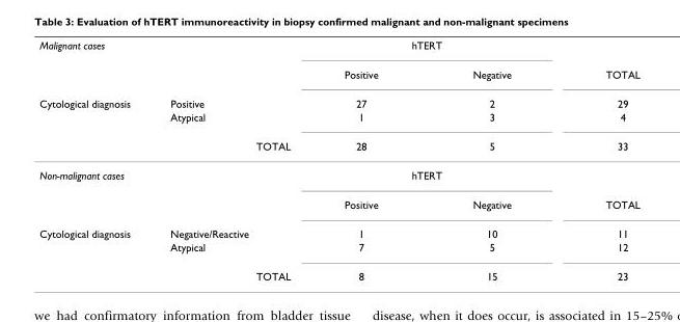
<table><thead><tr><td rowspan="5">Malignant cases Cytological diagnosis</td><td rowspan="5">Positive Atypical TOTAL</td><td colspan="2">hTERT</td><td rowspan="5">TOTAL 29 4 33</td></tr><tr><td rowspan="4">Positive 27 1 28</td><td rowspan="4">Negative 2 3 5</td></tr><tr></tr><tr></tr><tr></tr></thead><tbody><tr><td rowspan="2">Non-malignant cases</td><td></td><td colspan="2">hTERT</td><td></td></tr><tr><td></td><td>Positive</td><td>Negative</td><td>TOTAL</td></tr><tr><td rowspan="3">Cytological diagnosis</td><td>Negative/Reactive</td><td>1</td><td>10</td><td>11</td></tr><tr><td>Atypical</td><td>7</td><td>5</td><td>12</td></tr><tr><td>TOTAL</td><td>8</td><td>15</td><td>23</td></tr></tbody></table>